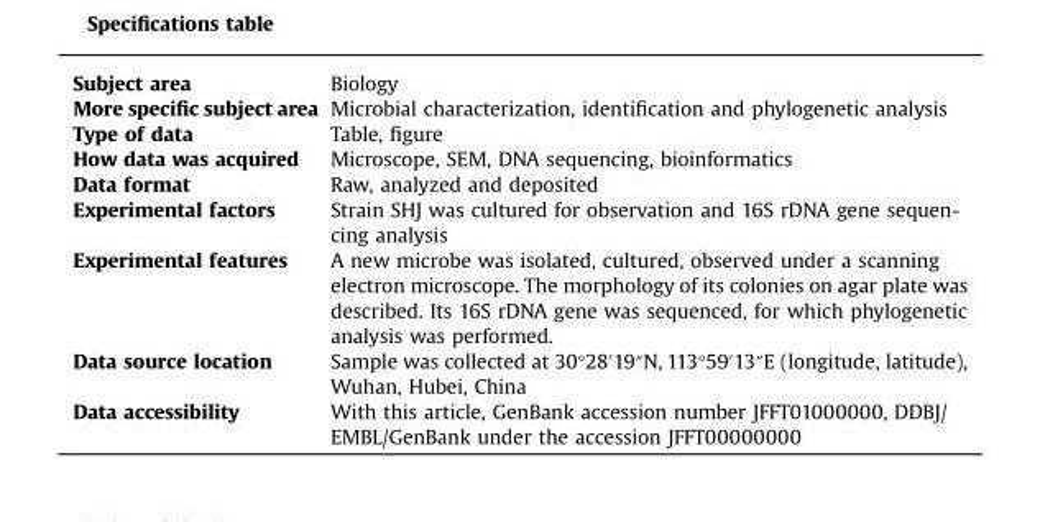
<table><tbody><tr><td>Subject area</td><td>Biology</td></tr><tr><td>More specific subject area</td><td>Microbial characterization, identification and phylogenetic analysis</td></tr><tr><td>Type of data</td><td>Table, figure</td></tr><tr><td>How data was acquired</td><td>Microscope, SEM, DNA sequencing, bioinformatics</td></tr><tr><td>Data format</td><td>Raw, analyzed and deposited</td></tr><tr><td>Experimental factors</td><td>Strain SHJ was cultured for observation and 16S rDNA gene sequen- cing analysis</td></tr><tr><td>Experimental features</td><td>A new microbe was isolated, cultured, observed under a scanning electron microscope. The morphology of its colonies on agar plate was described. Its 16S rDNA gene was sequenced, for which phylogenetic analysis was performed.</td></tr><tr><td>Data source location</td><td>Sample was collected at 30°28′19″N, 113°59′13″E (longitude, latitude), Wuhan, Hubei, China</td></tr><tr><td>Data accessibility</td><td>With this article, GenBank accession number JFFT01000000, DDBJ/ EMBL/GenBank under the accession JFFT00000000</td></tr></tbody></table>